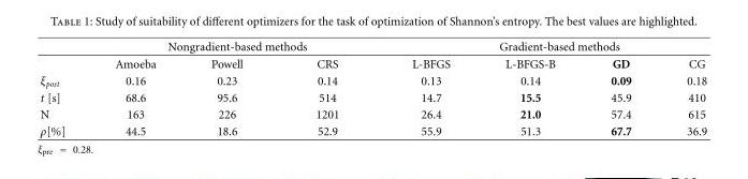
<table><thead><tr><td rowspan="2"></td><td colspan="3">Nongradient-based methods</td><td colspan="4">Gradient-based methods</td></tr><tr><td>Amoeba</td><td>Powell</td><td>CRS</td><td>L-BFGS</td><td>L-BFGS-B</td><td>GD</td><td>CG</td></tr></thead><tbody><tr><td>ξ<sub>post</sub></td><td>0.16</td><td>0.23</td><td>0.14</td><td>0.13</td><td>0.14</td><td>0.09</td><td>0.18</td></tr><tr><td>t [s]</td><td>68.6</td><td>95.6</td><td>514</td><td>14.7</td><td>15.5</td><td>45.9</td><td>410</td></tr><tr><td>N</td><td>163</td><td>226</td><td>1201</td><td>26.4</td><td>21.0</td><td>57.4</td><td>615</td></tr><tr><td>ρ[%]</td><td>44.5</td><td>18.6</td><td>52.9</td><td>55.9</td><td>51.3</td><td>67.7</td><td>36.9</td></tr></tbody></table>